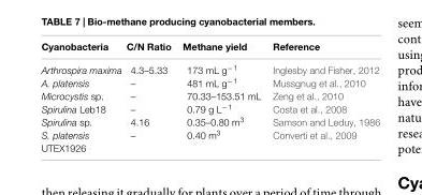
<table><thead><tr><td>Cyanobacteria</td><td>C/N Ratio</td><td>Methane yield</td><td>Reference</td></tr></thead><tbody><tr><td>Arthrospira maxima A. platensis Microcystis sp. Spirulina Leb18 Spirulina sp. S. platensis UTEX1926</td><td>4.3–5.33 – – – 4.16 –</td><td>173 mL g<sup>−1</sup> 481 mL g<sup>−1</sup> 70.33–153.51 mL 0.79 g L<sup>−1</sup> 0.35–0.80 m<sup>3</sup> 0.40 m<sup>3</sup></td><td>Inglesby and Fisher, 2012 Mussgnug et al., 2010 Zeng et al., 2010 Costa et al., 2008 Samson and Leduy, 1986 Converti et al., 2009</td></tr></tbody></table>